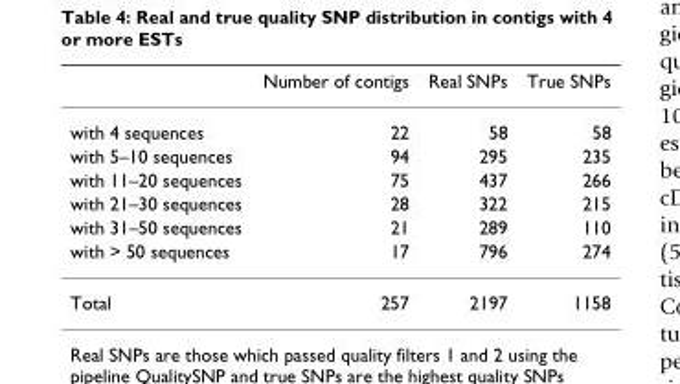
<table><thead><tr><td></td><td>Number of contigs</td><td>Real SNPs</td><td>True SNPs</td></tr></thead><tbody><tr><td>with 4 sequences</td><td>22</td><td>58</td><td>58</td></tr><tr><td>with 5–10 sequences</td><td>94</td><td>295</td><td>235</td></tr><tr><td>with 11–20 sequences</td><td>75</td><td>437</td><td>266</td></tr><tr><td>with 21–30 sequences</td><td>28</td><td>322</td><td>215</td></tr><tr><td>with 31–50 sequences</td><td>21</td><td>289</td><td>110</td></tr><tr><td>with &gt; 50 sequences</td><td>17</td><td>796</td><td>274</td></tr><tr><td>Total</td><td>257</td><td>2197</td><td>1158</td></tr></tbody></table>